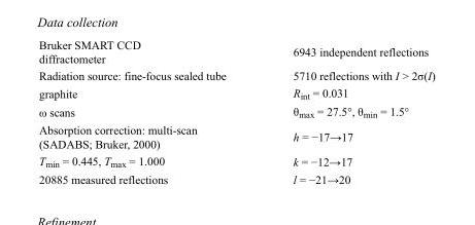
<table><tbody><tr><td>Bruker SMART CCD diffractometer</td><td>6943 independent reflections</td></tr><tr><td>Radiation source: fine-focus sealed tube</td><td>5710 reflections with I &gt; 2σ(I)</td></tr><tr><td>graphite</td><td>R<sub>int</sub> = 0.031</td></tr><tr><td>ω scans</td><td>θ<sub>max</sub> = 27.5°, θ<sub>min</sub> = 1.5°</td></tr><tr><td>Absorption correction: multi-scan (SADABS; Bruker, 2000)</td><td>h = −17→17</td></tr><tr><td>T<sub>min</sub> = 0.445, T<sub>max</sub> = 1.000</td><td>k = −12→17</td></tr><tr><td>20885 measured reflections</td><td>l = −21→20</td></tr></tbody></table>